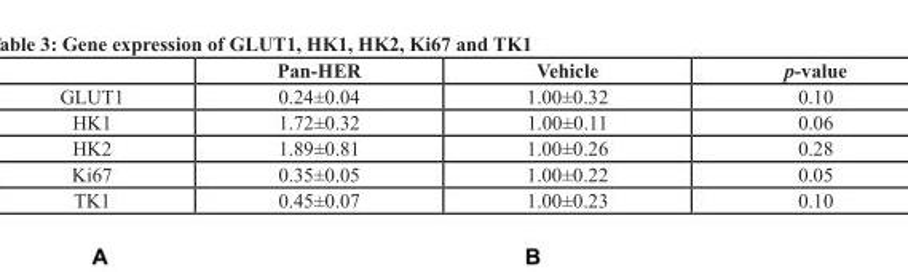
<table><thead><tr><td></td><td>Pan-HER</td><td>Vehicle</td><td>p-value</td></tr></thead><tbody><tr><td>GLUT1</td><td>0.24±0.04</td><td>1.00±0.32</td><td>0.10</td></tr><tr><td>HK1</td><td>1.72±0.32</td><td>1.00±0.11</td><td>0.06</td></tr><tr><td>HK2</td><td>1.89±0.81</td><td>1.00±0.26</td><td>0.28</td></tr><tr><td>Ki67</td><td>0.35±0.05</td><td>1.00±0.22</td><td>0.05</td></tr><tr><td>TK1</td><td>0.45±0.07</td><td>1.00±0.23</td><td>0.10</td></tr></tbody></table>